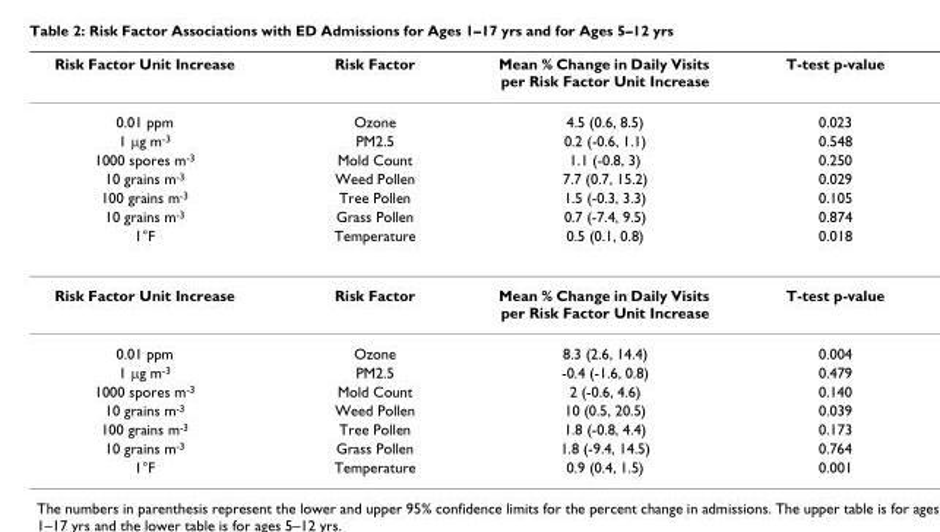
<table><thead><tr><td>Risk Factor Unit Increase</td><td>Risk Factor</td><td>Mean % Change in Daily Visits per Risk Factor Unit Increase</td><td>T-test p-value</td></tr></thead><tbody><tr><td>0.01 ppm</td><td>Ozone</td><td>4.5 (0.6, 8.5)</td><td>0.023</td></tr><tr><td>1 µg m<sup>-3</sup></td><td>PM2.5</td><td>0.2 (-0.6, 1.1)</td><td>0.548</td></tr><tr><td>1000 spores m<sup>-3</sup></td><td>Mold Count</td><td>1.1 (-0.8, 3)</td><td>0.250</td></tr><tr><td>10 grains m<sup>-3</sup></td><td>Weed Pollen</td><td>7.7 (0.7, 15.2)</td><td>0.029</td></tr><tr><td>100 grains m<sup>-3</sup></td><td>Tree Pollen</td><td>1.5 (-0.3, 3.3)</td><td>0.105</td></tr><tr><td>10 grains m<sup>-3</sup></td><td>Grass Pollen</td><td>0.7 (-7.4, 9.5)</td><td>0.874</td></tr><tr><td>1°F</td><td>Temperature</td><td>0.5 (0.1, 0.8)</td><td>0.018</td></tr><tr><td>Risk Factor Unit Increase</td><td>Risk Factor</td><td>Mean % Change in Daily Visits per Risk Factor Unit Increase</td><td>T-test p-value</td></tr><tr><td>0.01 ppm</td><td>Ozone</td><td>8.3 (2.6, 14.4)</td><td>0.004</td></tr><tr><td>1 µg m<sup>-3</sup></td><td>PM2.5</td><td>-0.4 (-1.6, 0.8)</td><td>0.479</td></tr><tr><td>1000 spores m<sup>-3</sup></td><td>Mold Count</td><td>2 (-0.6, 4.6)</td><td>0.140</td></tr><tr><td>10 grains m<sup>-3</sup></td><td>Weed Pollen</td><td>10 (0.5, 20.5)</td><td>0.039</td></tr><tr><td>100 grains m<sup>-3</sup></td><td>Tree Pollen</td><td>1.8 (-0.8, 4.4)</td><td>0.173</td></tr><tr><td>10 grains m<sup>-3</sup></td><td>Grass Pollen</td><td>1.8 (-9.4, 14.5)</td><td>0.764</td></tr><tr><td>1°F</td><td>Temperature</td><td>0.9 (0.4, 1.5)</td><td>0.001</td></tr></tbody></table>